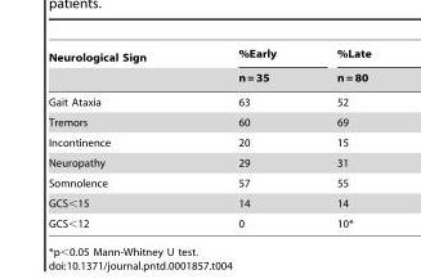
<table><thead><tr><td rowspan="2">Neurological Sign</td><td rowspan="2">%Early n = 35</td><td rowspan="2">%Late n = 80</td></tr><tr></tr></thead><tbody><tr><td>Gait Ataxia</td><td>63</td><td>52</td></tr><tr><td>Tremors</td><td>60</td><td>69</td></tr><tr><td>Incontinence</td><td>20</td><td>15</td></tr><tr><td>Neuropathy</td><td>29</td><td>31</td></tr><tr><td>Somnolence</td><td>57</td><td>55</td></tr><tr><td>GCS&lt;15</td><td>14</td><td>14</td></tr><tr><td>GCS&lt;12</td><td>0</td><td>10*</td></tr></tbody></table>